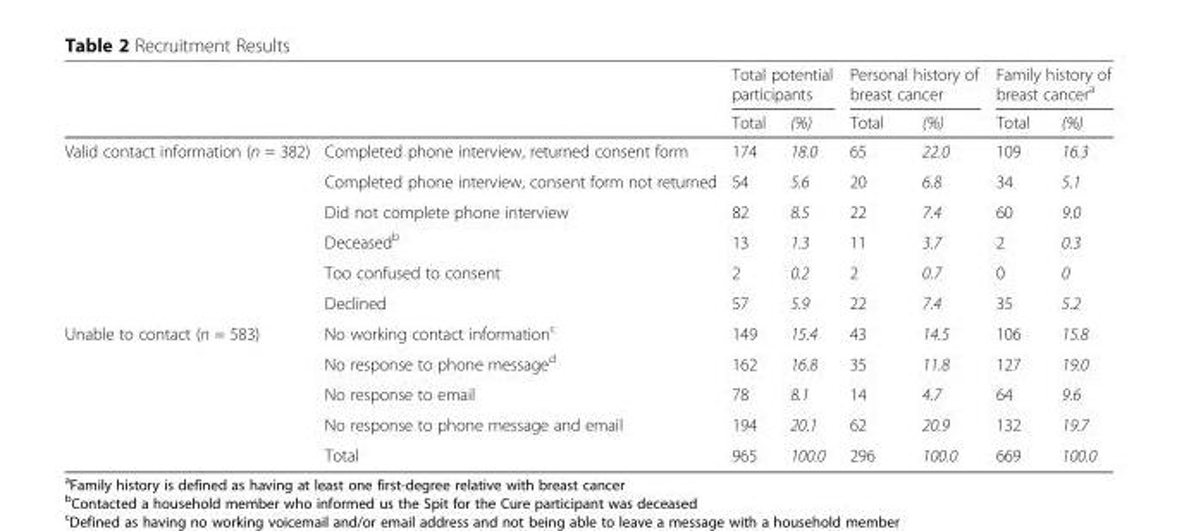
<table><thead><tr><td rowspan="2"></td><td rowspan="2"></td><td colspan="2">Total potential participants</td><td colspan="2">Personal history of breast cancer</td><td colspan="2">Family history of breast cancer<sup>a</sup></td></tr><tr><td>Total</td><td>(%)</td><td>Total</td><td>(%)</td><td>Total</td><td>(%)</td></tr></thead><tbody><tr><td rowspan="6">Valid contact information (n = 382)</td><td>Completed phone interview, returned consent form</td><td>174</td><td>18.0</td><td>65</td><td>22.0</td><td>109</td><td>16.3</td></tr><tr><td>Completed phone interview, consent form not returned</td><td>54</td><td>5.6</td><td>20</td><td>6.8</td><td>34</td><td>5.1</td></tr><tr><td>Did not complete phone interview</td><td>82</td><td>8.5</td><td>22</td><td>7.4</td><td>60</td><td>9.0</td></tr><tr><td>Deceased<sup>b</sup></td><td>13</td><td>1.3</td><td>11</td><td>3.7</td><td>2</td><td>0.3</td></tr><tr><td>Too confused to consent</td><td>2</td><td>0.2</td><td>2</td><td>0.7</td><td>0</td><td>0</td></tr><tr><td>Declined</td><td>57</td><td>5.9</td><td>22</td><td>7.4</td><td>35</td><td>5.2</td></tr><tr><td rowspan="5">Unable to contact (n = 583)</td><td>No working contact information<sup>c</sup></td><td>149</td><td>15.4</td><td>43</td><td>14.5</td><td>106</td><td>15.8</td></tr><tr><td>No response to phone message<sup>d</sup></td><td>162</td><td>16.8</td><td>35</td><td>11.8</td><td>127</td><td>19.0</td></tr><tr><td>No response to email</td><td>78</td><td>8.1</td><td>14</td><td>4.7</td><td>64</td><td>9.6</td></tr><tr><td>No response to phone message and email</td><td>194</td><td>20.1</td><td>62</td><td>20.9</td><td>132</td><td>19.7</td></tr><tr><td>Total</td><td>965</td><td>100.0</td><td>296</td><td>100.0</td><td>669</td><td>100.0</td></tr></tbody></table>